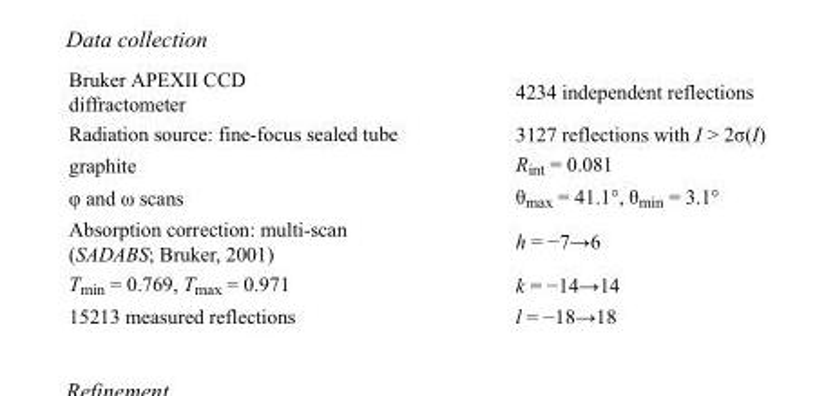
<table><tbody><tr><td>Bruker APEXII CCD diffractometer</td><td>4234 independent reflections</td></tr><tr><td>Radiation source: fine-focus sealed tube</td><td>3127 reflections with I &gt; 2σ(I)</td></tr><tr><td>graphite</td><td>R<sub>int</sub> = 0.081</td></tr><tr><td>φ and ω scans</td><td>θ<sub>max</sub> = 41.1°, θ<sub>min</sub> = 3.1°</td></tr><tr><td>Absorption correction: multi-scan (SADABS; Bruker, 2001)</td><td>h = −7→6</td></tr><tr><td>T<sub>min</sub> = 0.769, T<sub>max</sub> = 0.971</td><td>k = −14→14</td></tr><tr><td>15213 measured reflections</td><td>l = −18→18</td></tr></tbody></table>